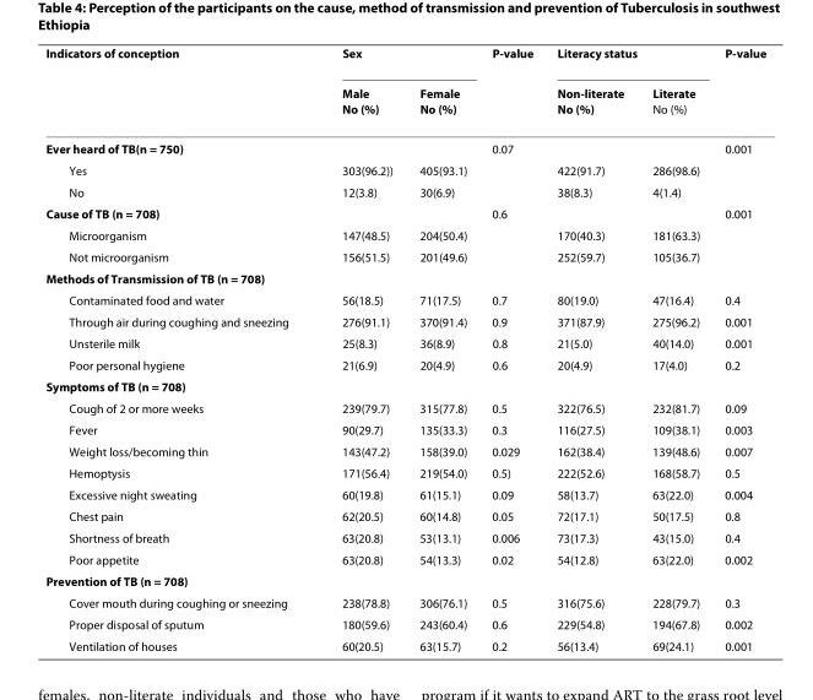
<table><thead><tr><td rowspan="2">Indicators of conception</td><td colspan="2">Sex</td><td rowspan="2">P-value</td><td colspan="2">Literacy status</td><td rowspan="2">P-value</td></tr><tr><td>Male No (%)</td><td>Female No (%)</td><td>Non-literate No (%)</td><td>Literate No (%)</td></tr></thead><tbody><tr><td>Ever heard of TB(n = 750)</td><td></td><td></td><td>0.07</td><td></td><td></td><td>0.001</td></tr><tr><td>Yes</td><td>303(96.2))</td><td>405(93.1)</td><td></td><td>422(91.7)</td><td>286(98.6)</td><td></td></tr><tr><td>No</td><td>12(3.8)</td><td>30(6.9)</td><td></td><td>38(8.3)</td><td>4(1.4)</td><td></td></tr><tr><td>Cause of TB (n = 708)</td><td></td><td></td><td>0.6</td><td></td><td></td><td>0.001</td></tr><tr><td>Microorganism</td><td>147(48.5)</td><td>204(50.4)</td><td></td><td>170(40.3)</td><td>181(63.3)</td><td></td></tr><tr><td>Not microorganism</td><td>156(51.5)</td><td>201(49.6)</td><td></td><td>252(59.7)</td><td>105(36.7)</td><td></td></tr><tr><td colspan="7">Methods of Transmission of TB (n = 708)</td></tr><tr><td>Contaminated food and water</td><td>56(18.5)</td><td>71(17.5)</td><td>0.7</td><td>80(19.0)</td><td>47(16.4)</td><td>0.4</td></tr><tr><td>Through air during coughing and sneezing</td><td>276(91.1)</td><td>370(91.4)</td><td>0.9</td><td>371(87.9)</td><td>275(96.2)</td><td>0.001</td></tr><tr><td>Unsterile milk</td><td>25(8.3)</td><td>36(8.9)</td><td>0.8</td><td>21(5.0)</td><td>40(14.0)</td><td>0.001</td></tr><tr><td>Poor personal hygiene</td><td>21(6.9)</td><td>20(4.9)</td><td>0.6</td><td>20(4.9)</td><td>17(4.0)</td><td>0.2</td></tr><tr><td colspan="7">Symptoms of TB (n = 708)</td></tr><tr><td>Cough of 2 or more weeks</td><td>239(79.7)</td><td>315(77.8)</td><td>0.5</td><td>322(76.5)</td><td>232(81.7)</td><td>0.09</td></tr><tr><td>Fever</td><td>90(29.7)</td><td>135(33.3)</td><td>0.3</td><td>116(27.5)</td><td>109(38.1)</td><td>0.003</td></tr><tr><td>Weight loss/becoming thin</td><td>143(47.2)</td><td>158(39.0)</td><td>0.029</td><td>162(38.4)</td><td>139(48.6)</td><td>0.007</td></tr><tr><td>Hemoptysis</td><td>171(56.4)</td><td>219(54.0)</td><td>0.5)</td><td>222(52.6)</td><td>168(58.7)</td><td>0.5</td></tr><tr><td>Excessive night sweating</td><td>60(19.8)</td><td>61(15.1)</td><td>0.09</td><td>58(13.7)</td><td>63(22.0)</td><td>0.004</td></tr><tr><td>Chest pain</td><td>62(20.5)</td><td>60(14.8)</td><td>0.05</td><td>72(17.1)</td><td>50(17.5)</td><td>0.8</td></tr><tr><td>Shortness of breath</td><td>63(20.8)</td><td>53(13.1)</td><td>0.006</td><td>73(17.3)</td><td>43(15.0)</td><td>0.4</td></tr><tr><td>Poor appetite</td><td>63(20.8)</td><td>54(13.3)</td><td>0.02</td><td>54(12.8)</td><td>63(22.0)</td><td>0.002</td></tr><tr><td colspan="7">Prevention of TB (n = 708)</td></tr><tr><td>Cover mouth during coughing or sneezing</td><td>238(78.8)</td><td>306(76.1)</td><td>0.5</td><td>316(75.6)</td><td>228(79.7)</td><td>0.3</td></tr><tr><td>Proper disposal of sputum</td><td>180(59.6)</td><td>243(60.4)</td><td>0.6</td><td>229(54.8)</td><td>194(67.8)</td><td>0.002</td></tr><tr><td>Ventilation of houses</td><td>60(20.5)</td><td>63(15.7)</td><td>0.2</td><td>56(13.4)</td><td>69(24.1)</td><td>0.001</td></tr></tbody></table>